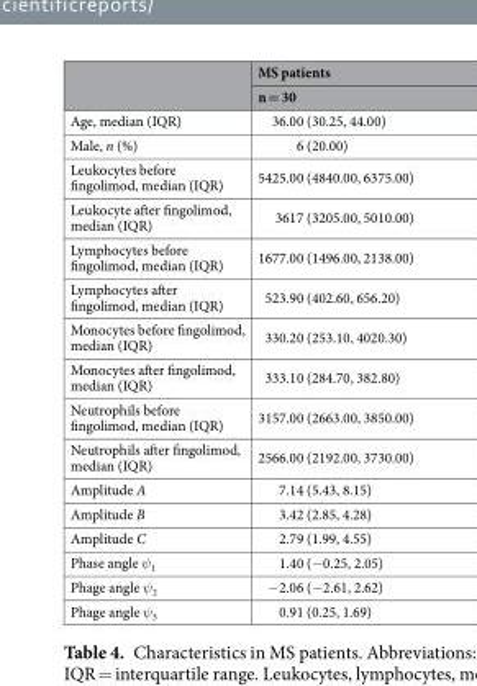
<table><thead><tr><td rowspan="2"></td><td rowspan="2">MS patients n = 30</td></tr><tr></tr></thead><tbody><tr><td>Age, median (IQR)</td><td>36.00 (30.25, 44.00)</td></tr><tr><td>Male, n (%)</td><td>6 (20.00)</td></tr><tr><td>Leukocytes before fingolimod, median (IQR)</td><td>5425.00 (4840.00, 6375.00)</td></tr><tr><td>Leukocyte after fingolimod, median (IQR)</td><td>3617 (3205.00, 5010.00)</td></tr><tr><td>Lymphocytes before fingolimod, median (IQR)</td><td>1677.00 (1496.00, 2138.00)</td></tr><tr><td>Lymphocytes after fingolimod, median (IQR)</td><td>523.90 (402.60, 656.20)</td></tr><tr><td>Monocytes before fingolimod, median (IQR)</td><td>330.20 (253.10, 4020.30)</td></tr><tr><td>Monocytes after fingolimod, median (IQR)</td><td>333.10 (284.70, 382.80)</td></tr><tr><td>Neutrophils before fingolimod, median (IQR)</td><td>3157.00 (2663.00, 3850.00)</td></tr><tr><td>Neutrophils after fingolimod, median (IQR)</td><td>2566.00 (2192.00, 3730.00)</td></tr><tr><td>Amplitude A</td><td>7.14 (5.43, 8.15)</td></tr><tr><td>Amplitude B</td><td>3.42 (2.85, 4.28)</td></tr><tr><td>Amplitude C</td><td>2.79 (1.99, 4.55)</td></tr><tr><td>Phase angle ψ<sub>1</sub></td><td>1.40 (−0.25, 2.05)</td></tr><tr><td>Phage angle ψ<sub>2</sub></td><td>−2.06 (−2.61, 2.62)</td></tr><tr><td>Phage angle ψ<sub>3</sub></td><td>0.91 (0.25, 1.69)</td></tr></tbody></table>